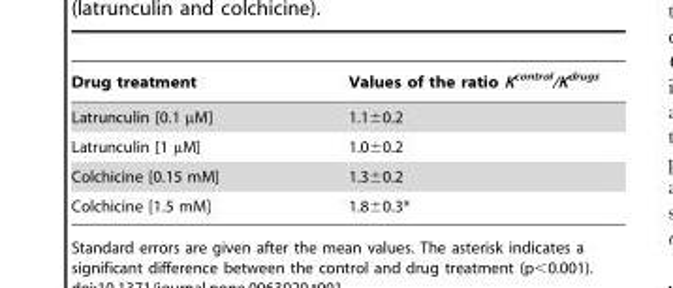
<table><thead><tr><td>Drug treatment</td><td>Values of the ratio K<sup>control</sup>/K<sup>drugs</sup></td></tr></thead><tbody><tr><td>Latrunculin [0.1 µM]</td><td>1.1±0.2</td></tr><tr><td>Latrunculin [1 µM]</td><td>1.0±0.2</td></tr><tr><td>Colchicine [0.15 mM]</td><td>1.3±0.2</td></tr><tr><td>Colchicine [1.5 mM]</td><td>1.8±0.3*</td></tr></tbody></table>